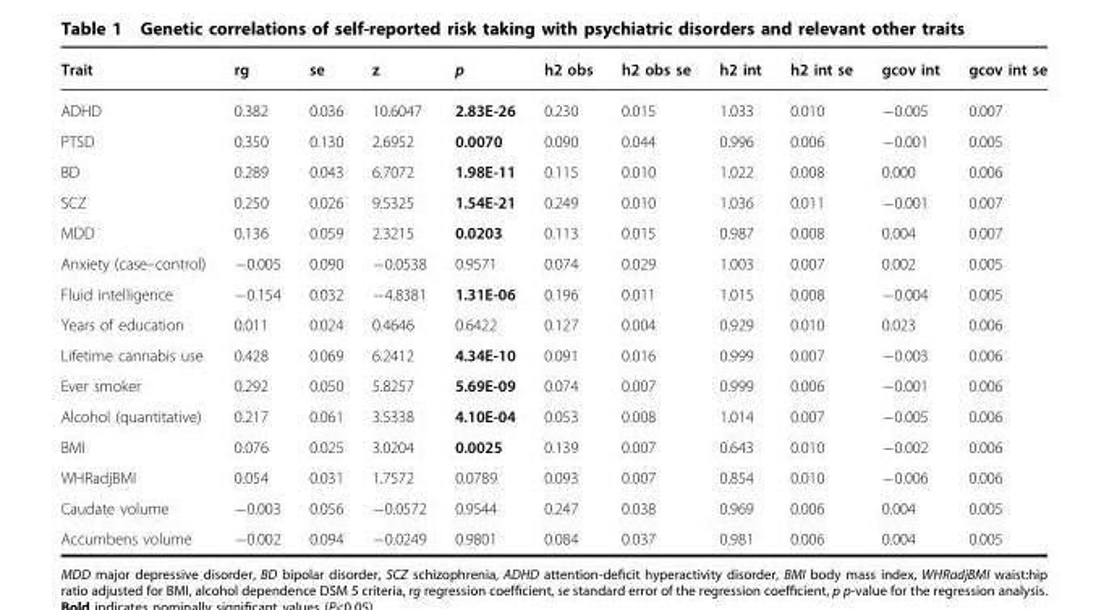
<table><thead><tr><td>Trait</td><td>rg</td><td>se</td><td>z</td><td>p</td><td>h2 obs</td><td>h2 obs se</td><td>h2 int</td><td>h2 int se</td><td>gcov int</td><td>gcov int se</td></tr></thead><tbody><tr><td>ADHD</td><td>0.382</td><td>0.036</td><td>10.6047</td><td>2.83E-26</td><td>0.230</td><td>0.015</td><td>1.033</td><td>0.010</td><td>−0.005</td><td>0.007</td></tr><tr><td>PTSD</td><td>0.350</td><td>0.130</td><td>2.6952</td><td>0.0070</td><td>0.090</td><td>0.044</td><td>0.996</td><td>0.006</td><td>−0.001</td><td>0.005</td></tr><tr><td>BD</td><td>0.289</td><td>0.043</td><td>6.7072</td><td>1.98E-11</td><td>0.115</td><td>0.010</td><td>1.022</td><td>0.008</td><td>0.000</td><td>0.006</td></tr><tr><td>SCZ</td><td>0.250</td><td>0.026</td><td>9.5325</td><td>1.54E-21</td><td>0.249</td><td>0.010</td><td>1.036</td><td>0.011</td><td>−0.001</td><td>0.007</td></tr><tr><td>MDD</td><td>0.136</td><td>0.059</td><td>2.3215</td><td>0.0203</td><td>0.113</td><td>0.015</td><td>0.987</td><td>0.008</td><td>0.004</td><td>0.007</td></tr><tr><td>Anxiety (case–control)</td><td>−0.005</td><td>0.090</td><td>−0.0538</td><td>0.9571</td><td>0.074</td><td>0.029</td><td>1.003</td><td>0.007</td><td>0.002</td><td>0.005</td></tr><tr><td>Fluid intelligence</td><td>−0.154</td><td>0.032</td><td>−4.8381</td><td>1.31E-06</td><td>0.196</td><td>0.011</td><td>1.015</td><td>0.008</td><td>−0.004</td><td>0.005</td></tr><tr><td>Years of education</td><td>0.011</td><td>0.024</td><td>0.4646</td><td>0.6422</td><td>0.127</td><td>0.004</td><td>0.929</td><td>0.010</td><td>0.023</td><td>0.006</td></tr><tr><td>Lifetime cannabis use</td><td>0.428</td><td>0.069</td><td>6.2412</td><td>4.34E-10</td><td>0.091</td><td>0.016</td><td>0.999</td><td>0.007</td><td>−0.003</td><td>0.006</td></tr><tr><td>Ever smoker</td><td>0.292</td><td>0.050</td><td>5.8257</td><td>5.69E-09</td><td>0.074</td><td>0.007</td><td>0.999</td><td>0.006</td><td>−0.001</td><td>0.006</td></tr><tr><td>Alcohol (quantitative)</td><td>0.217</td><td>0.061</td><td>3.5338</td><td>4.10E-04</td><td>0.053</td><td>0.008</td><td>1.014</td><td>0.007</td><td>−0.005</td><td>0.006</td></tr><tr><td>BMI</td><td>0.076</td><td>0.025</td><td>3.0204</td><td>0.0025</td><td>0.139</td><td>0.007</td><td>0.643</td><td>0.010</td><td>−0.002</td><td>0.006</td></tr><tr><td>WHRadjBMI</td><td>0.054</td><td>0.031</td><td>1.7572</td><td>0.0789</td><td>0.093</td><td>0.007</td><td>0.854</td><td>0.010</td><td>−0.006</td><td>0.006</td></tr><tr><td>Caudate volume</td><td>−0.003</td><td>0.056</td><td>−0.0572</td><td>0.9544</td><td>0.247</td><td>0.038</td><td>0.969</td><td>0.006</td><td>0.004</td><td>0.005</td></tr><tr><td>Accumbens volume</td><td>−0.002</td><td>0.094</td><td>−0.0249</td><td>0.9801</td><td>0.084</td><td>0.037</td><td>0.981</td><td>0.006</td><td>0.004</td><td>0.005</td></tr></tbody></table>